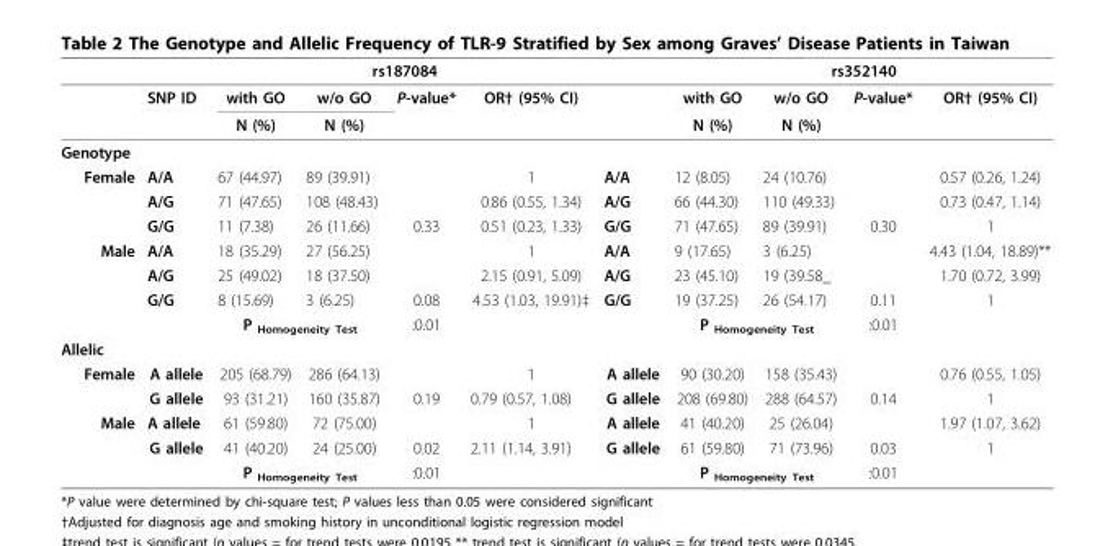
<table><thead><tr><td rowspan="2"></td><td rowspan="2">SNP ID</td><td colspan="4">rs187084</td><td rowspan="2"></td><td colspan="4">rs352140</td></tr><tr><td>with GO</td><td>w/o GO</td><td>P-value*</td><td>OR† (95% CI)</td><td>with GO</td><td>w/o GO</td><td>P-value*</td><td>OR† (95% CI)</td></tr></thead><tbody><tr><td></td><td></td><td>N (%)</td><td>N (%)</td><td></td><td></td><td></td><td>N (%)</td><td>N (%)</td><td></td><td></td></tr><tr><td colspan="11">Genotype</td></tr><tr><td rowspan="3">Female</td><td>A/A</td><td>67 (44.97)</td><td>89 (39.91)</td><td></td><td>1</td><td>A/A</td><td>12 (8.05)</td><td>24 (10.76)</td><td></td><td>0.57 (0.26, 1.24)</td></tr><tr><td>A/G</td><td>71 (47.65)</td><td>108 (48.43)</td><td></td><td>0.86 (0.55, 1.34)</td><td>A/G</td><td>66 (44.30)</td><td>110 (49.33)</td><td></td><td>0.73 (0.47, 1.14)</td></tr><tr><td>G/G</td><td>11 (7.38)</td><td>26 (11.66)</td><td>0.33</td><td>0.51 (0.23, 1.33)</td><td>G/G</td><td>71 (47.65)</td><td>89 (39.91)</td><td>0.30</td><td>1</td></tr><tr><td rowspan="4">Male</td><td>A/A</td><td>18 (35.29)</td><td>27 (56.25)</td><td></td><td>1</td><td>A/A</td><td>9 (17.65)</td><td>3 (6.25)</td><td></td><td>4.43 (1.04, 18.89)**</td></tr><tr><td>A/G</td><td>25 (49.02)</td><td>18 (37.50)</td><td></td><td>2.15 (0.91, 5.09)</td><td>A/G</td><td>23 (45.10)</td><td>19 (39.58_</td><td></td><td>1.70 (0.72, 3.99)</td></tr><tr><td>G/G</td><td>8 (15.69)</td><td>3 (6.25)</td><td>0.08</td><td>4.53 (1.03, 19.91)‡</td><td>G/G</td><td>19 (37.25)</td><td>26 (54.17)</td><td>0.11</td><td>1</td></tr><tr><td></td><td colspan="2">P <sub>Homogeneity Test</sub></td><td>:0.01</td><td></td><td></td><td colspan="2">P <sub>Homogeneity Test</sub></td><td>:0.01</td><td></td></tr><tr><td colspan="11">Allelic</td></tr><tr><td rowspan="2">Female</td><td>A allele</td><td>205 (68.79)</td><td>286 (64.13)</td><td></td><td>1</td><td>A allele</td><td>90 (30.20)</td><td>158 (35.43)</td><td></td><td>0.76 (0.55, 1.05)</td></tr><tr><td>G allele</td><td>93 (31.21)</td><td>160 (35.87)</td><td>0.19</td><td>0.79 (0.57, 1.08)</td><td>G allele</td><td>208 (69.80)</td><td>288 (64.57)</td><td>0.14</td><td>1</td></tr><tr><td rowspan="3">Male</td><td>A allele</td><td>61 (59.80)</td><td>72 (75.00)</td><td></td><td>1</td><td>A allele</td><td>41 (40.20)</td><td>25 (26.04)</td><td></td><td>1.97 (1.07, 3.62)</td></tr><tr><td>G allele</td><td>41 (40.20)</td><td>24 (25.00)</td><td>0.02</td><td>2.11 (1.14, 3.91)</td><td>G allele</td><td>61 (59.80)</td><td>71 (73.96)</td><td>0.03</td><td>1</td></tr><tr><td></td><td colspan="2">P <sub>Homogeneity Test</sub></td><td>:0.01</td><td></td><td></td><td colspan="2">P <sub>Homogeneity Test</sub></td><td>:0.01</td><td></td></tr></tbody></table>